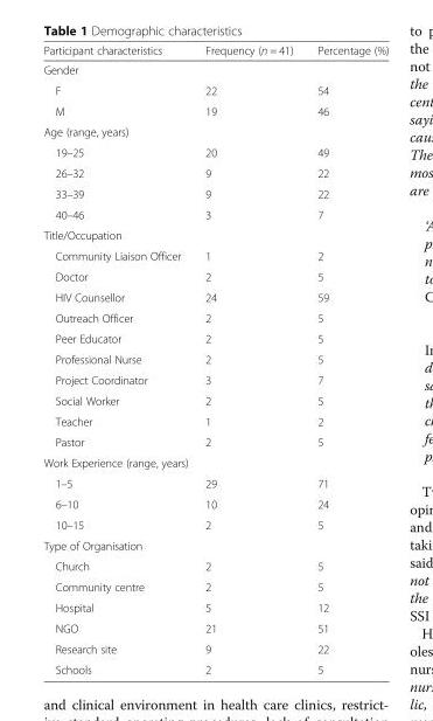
<table><thead><tr><td>Participant characteristics</td><td>Frequency (n = 41)</td><td>Percentage (%)</td></tr></thead><tbody><tr><td colspan="3">Gender</td></tr><tr><td>F</td><td>22</td><td>54</td></tr><tr><td>M</td><td>19</td><td>46</td></tr><tr><td colspan="3">Age (range, years)</td></tr><tr><td>19–25</td><td>20</td><td>49</td></tr><tr><td>26–32</td><td>9</td><td>22</td></tr><tr><td>33–39</td><td>9</td><td>22</td></tr><tr><td>40–46</td><td>3</td><td>7</td></tr><tr><td colspan="3">Title/Occupation</td></tr><tr><td>Community Liaison Officer</td><td>1</td><td>2</td></tr><tr><td>Doctor</td><td>2</td><td>5</td></tr><tr><td>HIV Counsellor</td><td>24</td><td>59</td></tr><tr><td>Outreach Officer</td><td>2</td><td>5</td></tr><tr><td>Peer Educator</td><td>2</td><td>5</td></tr><tr><td>Professional Nurse</td><td>2</td><td>5</td></tr><tr><td>Project Coordinator</td><td>3</td><td>7</td></tr><tr><td>Social Worker</td><td>2</td><td>5</td></tr><tr><td>Teacher</td><td>1</td><td>2</td></tr><tr><td>Pastor</td><td>2</td><td>5</td></tr><tr><td colspan="3">Work Experience (range, years)</td></tr><tr><td>1–5</td><td>29</td><td>71</td></tr><tr><td>6–10</td><td>10</td><td>24</td></tr><tr><td>10–15</td><td>2</td><td>5</td></tr><tr><td colspan="3">Type of Organisation</td></tr><tr><td>Church</td><td>2</td><td>5</td></tr><tr><td>Community centre</td><td>2</td><td>5</td></tr><tr><td>Hospital</td><td>5</td><td>12</td></tr><tr><td>NGO</td><td>21</td><td>51</td></tr><tr><td>Research site</td><td>9</td><td>22</td></tr><tr><td>Schools</td><td>2</td><td>5</td></tr></tbody></table>